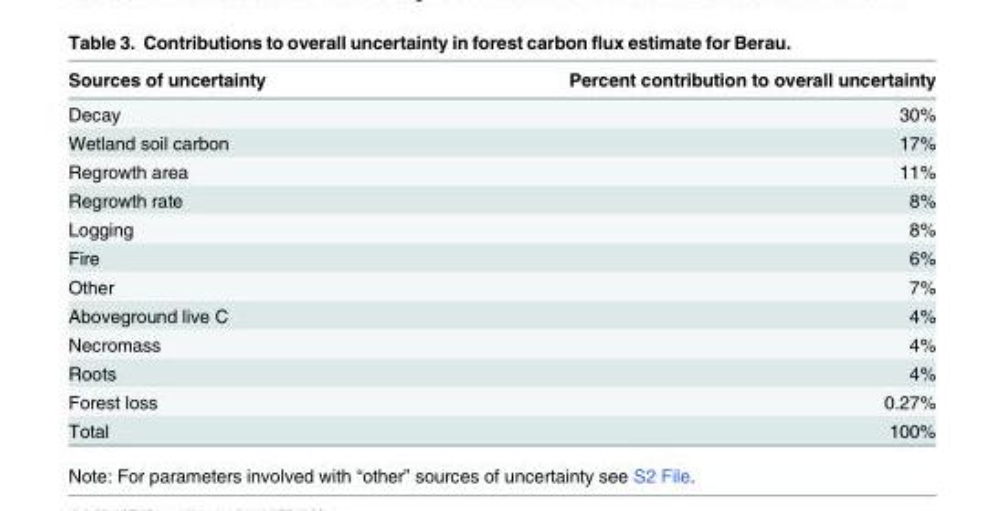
<table><thead><tr><td>Sources of uncertainty</td><td>Percent contribution to overall uncertainty</td></tr></thead><tbody><tr><td>Decay</td><td>30%</td></tr><tr><td>Wetland soil carbon</td><td>17%</td></tr><tr><td>Regrowth area</td><td>11%</td></tr><tr><td>Regrowth rate</td><td>8%</td></tr><tr><td>Logging</td><td>8%</td></tr><tr><td>Fire</td><td>6%</td></tr><tr><td>Other</td><td>7%</td></tr><tr><td>Aboveground live C</td><td>4%</td></tr><tr><td>Necromass</td><td>4%</td></tr><tr><td>Roots</td><td>4%</td></tr><tr><td>Forest loss</td><td>0.27%</td></tr><tr><td>Total</td><td>100%</td></tr></tbody></table>